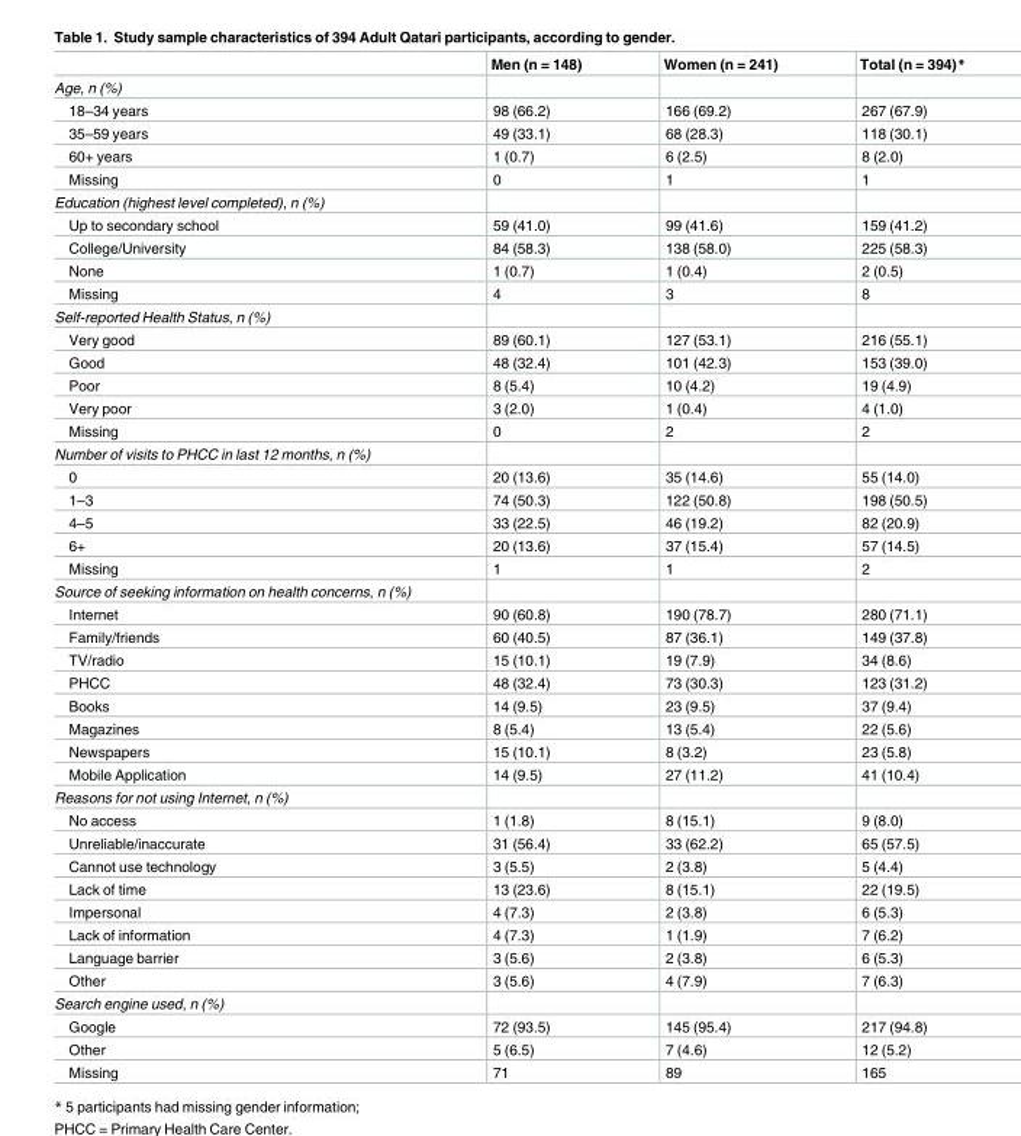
<table><thead><tr><td></td><td>Men (n = 148)</td><td>Women (n = 241)</td><td>Total (n = 394)*</td></tr></thead><tbody><tr><td colspan="4">Age, n (%)</td></tr><tr><td>18–34 years</td><td>98 (66.2)</td><td>166 (69.2)</td><td>267 (67.9)</td></tr><tr><td>35–59 years</td><td>49 (33.1)</td><td>68 (28.3)</td><td>118 (30.1)</td></tr><tr><td>60+ years</td><td>1 (0.7)</td><td>6 (2.5)</td><td>8 (2.0)</td></tr><tr><td>Missing</td><td>0</td><td>1</td><td>1</td></tr><tr><td colspan="4">Education (highest level completed), n (%)</td></tr><tr><td>Up to secondary school</td><td>59 (41.0)</td><td>99 (41.6)</td><td>159 (41.2)</td></tr><tr><td>College/University</td><td>84 (58.3)</td><td>138 (58.0)</td><td>225 (58.3)</td></tr><tr><td>None</td><td>1 (0.7)</td><td>1 (0.4)</td><td>2 (0.5)</td></tr><tr><td>Missing</td><td>4</td><td>3</td><td>8</td></tr><tr><td colspan="4">Self-reported Health Status, n (%)</td></tr><tr><td>Very good</td><td>89 (60.1)</td><td>127 (53.1)</td><td>216 (55.1)</td></tr><tr><td>Good</td><td>48 (32.4)</td><td>101 (42.3)</td><td>153 (39.0)</td></tr><tr><td>Poor</td><td>8 (5.4)</td><td>10 (4.2)</td><td>19 (4.9)</td></tr><tr><td>Very poor</td><td>3 (2.0)</td><td>1 (0.4)</td><td>4 (1.0)</td></tr><tr><td>Missing</td><td>0</td><td>2</td><td>2</td></tr><tr><td colspan="4">Number of visits to PHCC in last 12 months, n (%)</td></tr><tr><td>0</td><td>20 (13.6)</td><td>35 (14.6)</td><td>55 (14.0)</td></tr><tr><td>1–3</td><td>74 (50.3)</td><td>122 (50.8)</td><td>198 (50.5)</td></tr><tr><td>4–5</td><td>33 (22.5)</td><td>46 (19.2)</td><td>82 (20.9)</td></tr><tr><td>6+</td><td>20 (13.6)</td><td>37 (15.4)</td><td>57 (14.5)</td></tr><tr><td>Missing</td><td>1</td><td>1</td><td>2</td></tr><tr><td colspan="4">Source of seeking information on health concerns, n (%)</td></tr><tr><td>Internet</td><td>90 (60.8)</td><td>190 (78.7)</td><td>280 (71.1)</td></tr><tr><td>Family/friends</td><td>60 (40.5)</td><td>87 (36.1)</td><td>149 (37.8)</td></tr><tr><td>TV/radio</td><td>15 (10.1)</td><td>19 (7.9)</td><td>34 (8.6)</td></tr><tr><td>PHCC</td><td>48 (32.4)</td><td>73 (30.3)</td><td>123 (31.2)</td></tr><tr><td>Books</td><td>14 (9.5)</td><td>23 (9.5)</td><td>37 (9.4)</td></tr><tr><td>Magazines</td><td>8 (5.4)</td><td>13 (5.4)</td><td>22 (5.6)</td></tr><tr><td>Newspapers</td><td>15 (10.1)</td><td>8 (3.2)</td><td>23 (5.8)</td></tr><tr><td>Mobile Application</td><td>14 (9.5)</td><td>27 (11.2)</td><td>41 (10.4)</td></tr><tr><td colspan="4">Reasons for not using Internet, n (%)</td></tr><tr><td>No access</td><td>1 (1.8)</td><td>8 (15.1)</td><td>9 (8.0)</td></tr><tr><td>Unreliable/inaccurate</td><td>31 (56.4)</td><td>33 (62.2)</td><td>65 (57.5)</td></tr><tr><td>Cannot use technology</td><td>3 (5.5)</td><td>2 (3.8)</td><td>5 (4.4)</td></tr><tr><td>Lack of time</td><td>13 (23.6)</td><td>8 (15.1)</td><td>22 (19.5)</td></tr><tr><td>Impersonal</td><td>4 (7.3)</td><td>2 (3.8)</td><td>6 (5.3)</td></tr><tr><td>Lack of information</td><td>4 (7.3)</td><td>1 (1.9)</td><td>7 (6.2)</td></tr><tr><td>Language barrier</td><td>3 (5.6)</td><td>2 (3.8)</td><td>6 (5.3)</td></tr><tr><td>Other</td><td>3 (5.6)</td><td>4 (7.9)</td><td>7 (6.3)</td></tr><tr><td colspan="4">Search engine used, n (%)</td></tr><tr><td>Google</td><td>72 (93.5)</td><td>145 (95.4)</td><td>217 (94.8)</td></tr><tr><td>Other</td><td>5 (6.5)</td><td>7 (4.6)</td><td>12 (5.2)</td></tr><tr><td>Missing</td><td>71</td><td>89</td><td>165</td></tr></tbody></table>